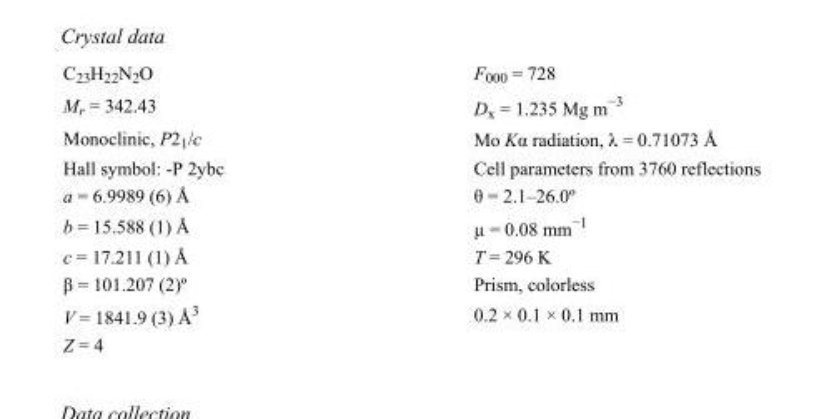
<table><tbody><tr><td>C<sub>23</sub>H<sub>22</sub>N<sub>2</sub>O</td><td>F000 = 728</td></tr><tr><td>M<sub>r</sub> = 342.43</td><td>D<sub>x</sub> = 1.235 Mg m<sup>−3</sup></td></tr><tr><td>Monoclinic, P2<sub>1</sub>/c</td><td>Mo Kα radiation, λ = 0.71073 Å</td></tr><tr><td>Hall symbol: -P 2ybc</td><td>Cell parameters from 3760 reflections</td></tr><tr><td>a = 6.9989 (6) Å</td><td>θ = 2.1–26.0º</td></tr><tr><td>b = 15.588 (1) Å</td><td>µ = 0.08 mm<sup>−1</sup></td></tr><tr><td>c = 17.211 (1) Å</td><td>T = 296 K</td></tr><tr><td>β = 101.207 (2)º</td><td>Prism, colorless</td></tr><tr><td>V = 1841.9 (3) Å<sup>3</sup></td><td>0.2 × 0.1 × 0.1 mm</td></tr><tr><td>Z = 4</td><td></td></tr></tbody></table>